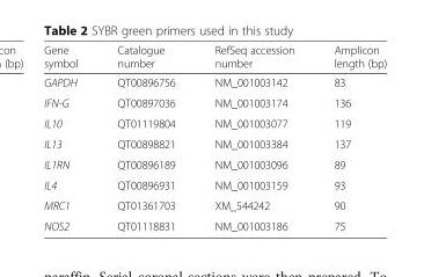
<table><thead><tr><td>Gene symbol</td><td>Catalogue number</td><td>RefSeq accession number</td><td>Amplicon length (bp)</td></tr></thead><tbody><tr><td>GAPDH</td><td>QT00896756</td><td>NM_001003142</td><td>83</td></tr><tr><td>IFN-G</td><td>QT00897036</td><td>NM_001003174</td><td>136</td></tr><tr><td>IL10</td><td>QT01119804</td><td>NM_001003077</td><td>119</td></tr><tr><td>IL13</td><td>QT00898821</td><td>NM_001003384</td><td>137</td></tr><tr><td>IL1RN</td><td>QT00896189</td><td>NM_001003096</td><td>89</td></tr><tr><td>IL4</td><td>QT00896931</td><td>NM_001003159</td><td>93</td></tr><tr><td>MRC1</td><td>QT01361703</td><td>XM_544242</td><td>90</td></tr><tr><td>NOS2</td><td>QT01118831</td><td>NM_001003186</td><td>75</td></tr></tbody></table>